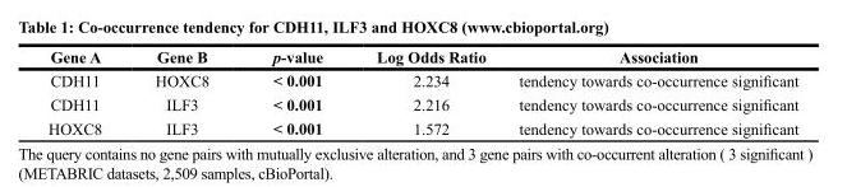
<table><thead><tr><td>Gene A</td><td>Gene B</td><td>p-value</td><td>Log Odds Ratio</td><td>Association</td></tr></thead><tbody><tr><td>CDH11</td><td>HOXC8</td><td>&lt; 0.001</td><td>2.234</td><td>tendency towards co-occurrence significant</td></tr><tr><td>CDH11</td><td>ILF3</td><td>&lt; 0.001</td><td>2.216</td><td>tendency towards co-occurrence significant</td></tr><tr><td>HOXC8</td><td>ILF3</td><td>&lt; 0.001</td><td>1.572</td><td>tendency towards co-occurrence significant</td></tr></tbody></table>